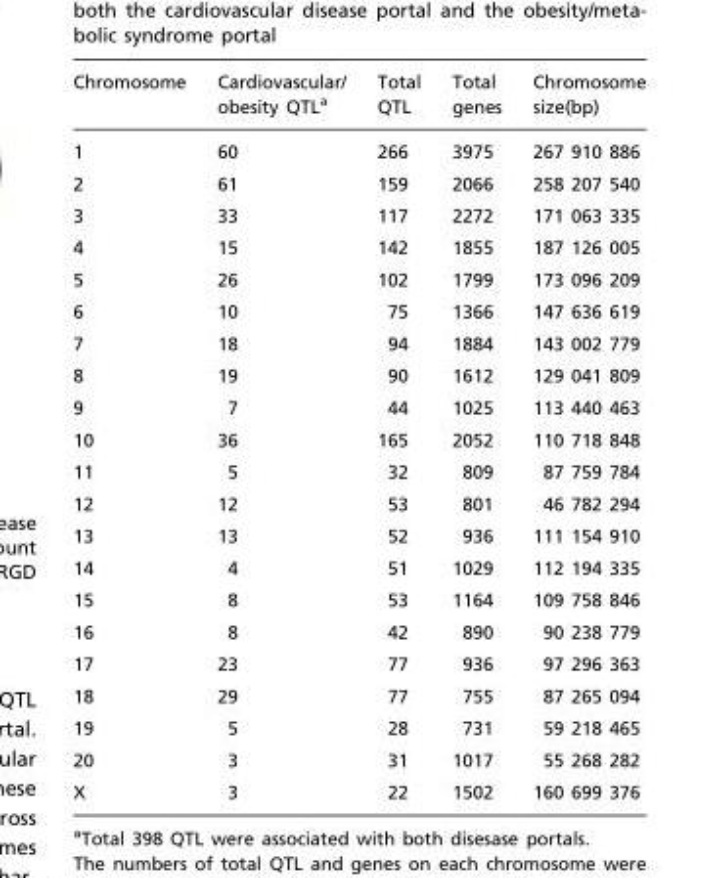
<table><thead><tr><td>Chromosome</td><td>Cardiovascular/ obesity QTL<sup>a</sup></td><td>Total QTL</td><td>Total genes</td><td>Chromosome size(bp)</td></tr></thead><tbody><tr><td>1</td><td>60</td><td>266</td><td>3975</td><td>267 910 886</td></tr><tr><td>2</td><td>61</td><td>159</td><td>2066</td><td>258 207 540</td></tr><tr><td>3</td><td>33</td><td>117</td><td>2272</td><td>171 063 335</td></tr><tr><td>4</td><td>15</td><td>142</td><td>1855</td><td>187 126 005</td></tr><tr><td>5</td><td>26</td><td>102</td><td>1799</td><td>173 096 209</td></tr><tr><td>6</td><td>10</td><td>75</td><td>1366</td><td>147 636 619</td></tr><tr><td>7</td><td>18</td><td>94</td><td>1884</td><td>143 002 779</td></tr><tr><td>8</td><td>19</td><td>90</td><td>1612</td><td>129 041 809</td></tr><tr><td>9</td><td>7</td><td>44</td><td>1025</td><td>113 440 463</td></tr><tr><td>10</td><td>36</td><td>165</td><td>2052</td><td>110 718 848</td></tr><tr><td>11</td><td>5</td><td>32</td><td>809</td><td>87 759 784</td></tr><tr><td>12</td><td>12</td><td>53</td><td>801</td><td>46 782 294</td></tr><tr><td>13</td><td>13</td><td>52</td><td>936</td><td>111 154 910</td></tr><tr><td>14</td><td>4</td><td>51</td><td>1029</td><td>112 194 335</td></tr><tr><td>15</td><td>8</td><td>53</td><td>1164</td><td>109 758 846</td></tr><tr><td>16</td><td>8</td><td>42</td><td>890</td><td>90 238 779</td></tr><tr><td>17</td><td>23</td><td>77</td><td>936</td><td>97 296 363</td></tr><tr><td>18</td><td>29</td><td>77</td><td>755</td><td>87 265 094</td></tr><tr><td>19</td><td>5</td><td>28</td><td>731</td><td>59 218 465</td></tr><tr><td>20</td><td>3</td><td>31</td><td>1017</td><td>55 268 282</td></tr><tr><td>X</td><td>3</td><td>22</td><td>1502</td><td>160 699 376</td></tr></tbody></table>